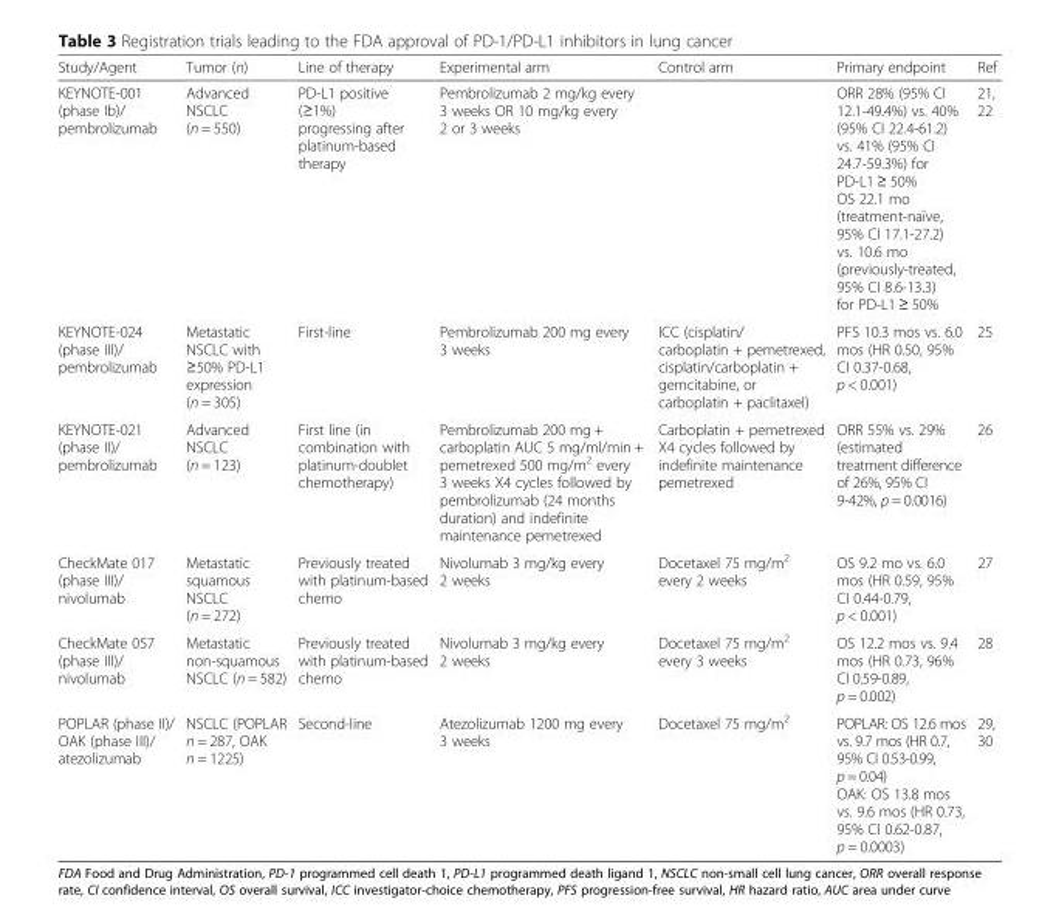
<table><thead><tr><td>Study/Agent</td><td>Tumor (n)</td><td>Line of therapy</td><td>Experimental arm</td><td>Control arm</td><td>Primary endpoint</td><td>Ref</td></tr></thead><tbody><tr><td>KEYNOTE-001 (phase Ib)/ pembrolizumab</td><td>Advanced NSCLC (n = 550)</td><td>PD-L1 positive (≥1%) progressing after platinum-based therapy</td><td>Pembrolizumab 2 mg/kg every 3 weeks OR 10 mg/kg every 2 or 3 weeks</td><td></td><td>ORR 28% (95% CI 12.1-49.4%) vs. 40% (95% CI 22.4-61.2) vs. 41% (95% CI 24.7-59.3%) for PD-L1 ≥ 50% OS 22.1 mo (treatment-naïve, 95% CI 17.1-27.2) vs. 10.6 mo (previously-treated, 95% CI 8.6-13.3) for PD-L1 ≥ 50%</td><td>21, 22</td></tr><tr><td>KEYNOTE-024 (phase III)/ pembrolizumab</td><td>Metastatic NSCLC with ≥50% PD-L1 expression (n = 305)</td><td>First-line</td><td>Pembrolizumab 200 mg every 3 weeks</td><td>ICC (cisplatin/ carboplatin + pemetrexed, cisplatin/carboplatin + gemcitabine, or carboplatin + paclitaxel)</td><td>PFS 10.3 mos vs. 6.0 mos (HR 0.50, 95% CI 0.37-0.68, p &lt; 0.001)</td><td>25</td></tr><tr><td>KEYNOTE-021 (phase II)/ pembrolizumab</td><td>Advanced NSCLC (n = 123)</td><td>First line (in combination with platinum-doublet chemotherapy)</td><td>Pembrolizumab 200 mg + carboplatin AUC 5 mg/ml/min + pemetrexed 500 mg/m<sup>2</sup> every 3 weeks X4 cycles followed by pembrolizumab (24 months duration) and indefinite maintenance pemetrexed</td><td>Carboplatin + pemetrexed X4 cycles followed by indefinite maintenance pemetrexed</td><td>ORR 55% vs. 29% (estimated treatment difference of 26%, 95% CI 9-42%, p = 0.0016)</td><td>26</td></tr><tr><td>CheckMate 017 (phase III)/ nivolumab</td><td>Metastatic squamous NSCLC (n = 272)</td><td>Previously treated with platinum-based chemo</td><td>Nivolumab 3 mg/kg every 2 weeks</td><td>Docetaxel 75 mg/m<sup>2</sup> every 2 weeks</td><td>OS 9.2 mo vs. 6.0 mos (HR 0.59, 95% CI 0.44-0.79, p &lt; 0.001)</td><td>27</td></tr><tr><td>CheckMate 057 (phase III)/ nivolumab</td><td>Metastatic non-squamous NSCLC (n = 582)</td><td>Previously treated with platinum-based chemo</td><td>Nivolumab 3 mg/kg every 2 weeks</td><td>Docetaxel 75 mg/m<sup>2</sup> every 3 weeks</td><td>OS 12.2 mos vs. 9.4 mos (HR 0.73, 96% CI 0.59-0.89, p = 0.002)</td><td>28</td></tr><tr><td>POPLAR (phase II)/ OAK (phase III)/ atezolizumab</td><td>NSCLC (POPLAR n = 287, OAK n = 1225)</td><td>Second-line</td><td>Atezolizumab 1200 mg every 3 weeks</td><td>Docetaxel 75 mg/m<sup>2</sup></td><td>POPLAR: OS 12.6 mos vs. 9.7 mos (HR 0.7, 95% CI 0.53-0.99, p = 0.04) OAK: OS 13.8 mos vs. 9.6 mos (HR 0.73, 95% CI 0.62-0.87, p = 0.0003)</td><td>29, 30</td></tr></tbody></table>